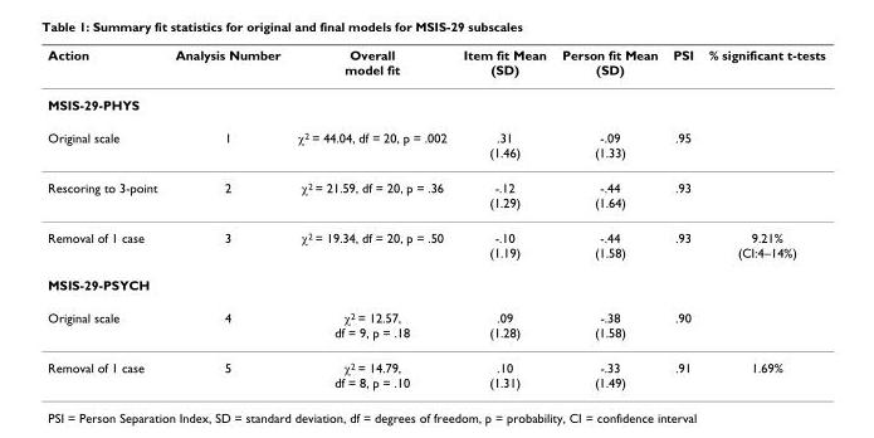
<table><thead><tr><td>Action</td><td>Analysis Number</td><td>Overall model fit</td><td>Item fit Mean (SD)</td><td>Person fit Mean (SD)</td><td>PSI</td><td>% significant t-tests</td></tr></thead><tbody><tr><td colspan="7">MSIS-29-PHYS</td></tr><tr><td>Original scale</td><td>1</td><td>χ<sup>2</sup> = 44.04, df = 20, p = .002</td><td>.31 (1.46)</td><td>-.09 (1.33)</td><td>.95</td><td></td></tr><tr><td>Rescoring to 3-point</td><td>2</td><td>χ<sup>2</sup> = 21.59, df = 20, p = .36</td><td>-.12 (1.29)</td><td>-.44 (1.64)</td><td>.93</td><td></td></tr><tr><td>Removal of 1 case</td><td>3</td><td>χ<sup>2</sup> = 19.34, df = 20, p = .50</td><td>-.10 (1.19)</td><td>-.44 (1.58)</td><td>.93</td><td>9.21% (CI:4–14%)</td></tr><tr><td colspan="7">MSIS-29-PSYCH</td></tr><tr><td>Original scale</td><td>4</td><td>χ<sup>2</sup> = 12.57, df = 9, p = .18</td><td>.09 (1.28)</td><td>-.38 (1.58)</td><td>.90</td><td></td></tr><tr><td>Removal of 1 case</td><td>5</td><td>χ<sup>2</sup> = 14.79, df = 8, p = .10</td><td>.10 (1.31)</td><td>-.33 (1.49)</td><td>.91</td><td>1.69%</td></tr></tbody></table>